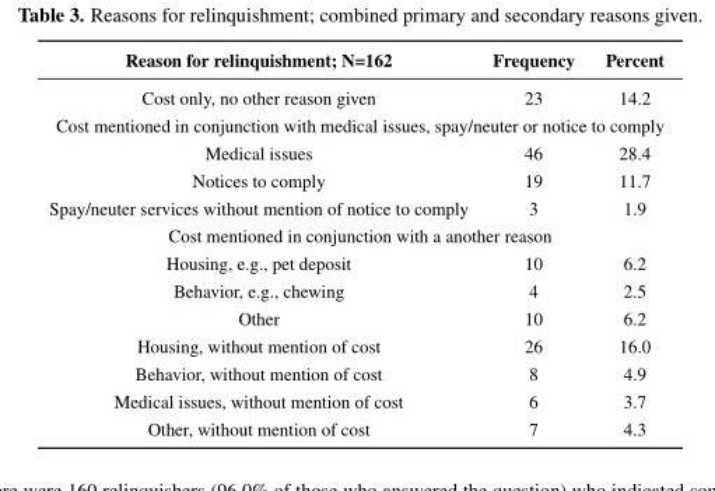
<table><thead><tr><td>Reason for relinquishment; N=162</td><td>Frequency</td><td>Percent</td></tr></thead><tbody><tr><td>Cost only, no other reason given</td><td>23</td><td>14.2</td></tr><tr><td colspan="3">Cost mentioned in conjunction with medical issues, spay/neuter or notice to comply</td></tr><tr><td>Medical issues</td><td>46</td><td>28.4</td></tr><tr><td>Notices to comply</td><td>19</td><td>11.7</td></tr><tr><td>Spay/neuter services without mention of notice to comply</td><td>3</td><td>1.9</td></tr><tr><td colspan="3">Cost mentioned in conjunction with a another reason</td></tr><tr><td>Housing, e.g., pet deposit</td><td>10</td><td>6.2</td></tr><tr><td>Behavior, e.g., chewing</td><td>4</td><td>2.5</td></tr><tr><td>Other</td><td>10</td><td>6.2</td></tr><tr><td>Housing, without mention of cost</td><td>26</td><td>16.0</td></tr><tr><td>Behavior, without mention of cost</td><td>8</td><td>4.9</td></tr><tr><td>Medical issues, without mention of cost</td><td>6</td><td>3.7</td></tr><tr><td>Other, without mention of cost</td><td>7</td><td>4.3</td></tr></tbody></table>